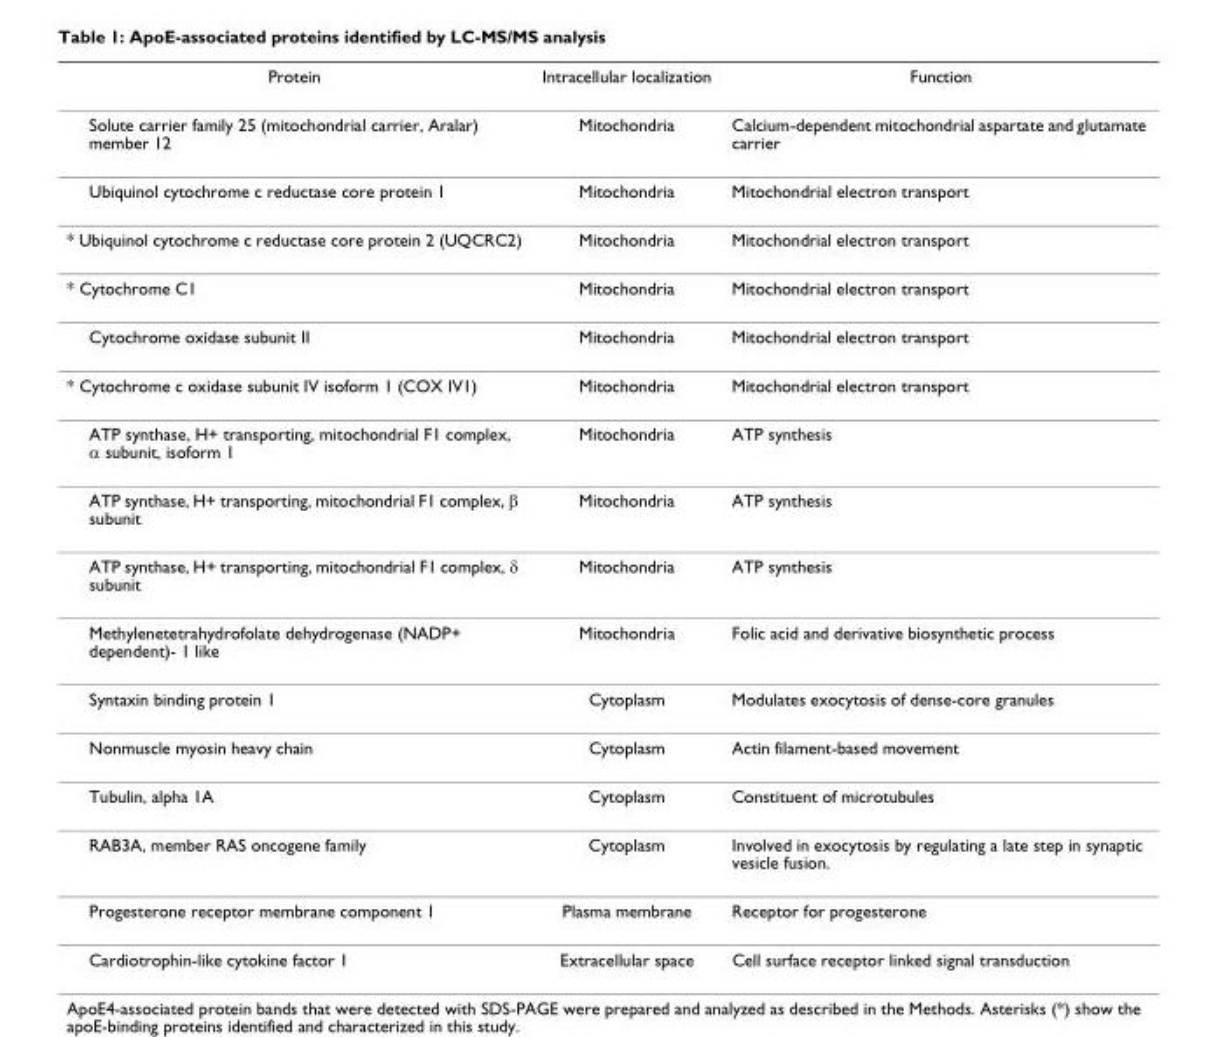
<table><thead><tr><td>Protein</td><td>Intracellular localization</td><td>Function</td></tr></thead><tbody><tr><td>Solute carrier family 25 (mitochondrial carrier, Aralar) member 12</td><td>Mitochondria</td><td>Calcium-dependent mitochondrial aspartate and glutamate carrier</td></tr><tr><td>Ubiquinol cytochrome c reductase core protein 1</td><td>Mitochondria</td><td>Mitochondrial electron transport</td></tr><tr><td>* Ubiquinol cytochrome c reductase core protein 2 (UQCRC2)</td><td>Mitochondria</td><td>Mitochondrial electron transport</td></tr><tr><td>* Cytochrome C1</td><td>Mitochondria</td><td>Mitochondrial electron transport</td></tr><tr><td>Cytochrome oxidase subunit II</td><td>Mitochondria</td><td>Mitochondrial electron transport</td></tr><tr><td>* Cytochrome c oxidase subunit IV isoform 1 (COX IV1)</td><td>Mitochondria</td><td>Mitochondrial electron transport</td></tr><tr><td>ATP synthase, H+ transporting, mitochondrial F1 complex, α subunit, isoform 1</td><td>Mitochondria</td><td>ATP synthesis</td></tr><tr><td>ATP synthase, H+ transporting, mitochondrial F1 complex, β subunit</td><td>Mitochondria</td><td>ATP synthesis</td></tr><tr><td>ATP synthase, H+ transporting, mitochondrial F1 complex, δ subunit</td><td>Mitochondria</td><td>ATP synthesis</td></tr><tr><td>Methylenetetrahydrofolate dehydrogenase (NADP+ dependent)- 1 like</td><td>Mitochondria</td><td>Folic acid and derivative biosynthetic process</td></tr><tr><td>Syntaxin binding protein 1</td><td>Cytoplasm</td><td>Modulates exocytosis of dense-core granules</td></tr><tr><td>Nonmuscle myosin heavy chain</td><td>Cytoplasm</td><td>Actin filament-based movement</td></tr><tr><td>Tubulin, alpha 1A</td><td>Cytoplasm</td><td>Constituent of microtubules</td></tr><tr><td>RAB3A, member RAS oncogene family</td><td>Cytoplasm</td><td>Involved in exocytosis by regulating a late step in synaptic vesicle fusion.</td></tr><tr><td>Progesterone receptor membrane component 1</td><td>Plasma membrane</td><td>Receptor for progesterone</td></tr><tr><td>Cardiotrophin-like cytokine factor 1</td><td>Extracellular space</td><td>Cell surface receptor linked signal transduction</td></tr></tbody></table>